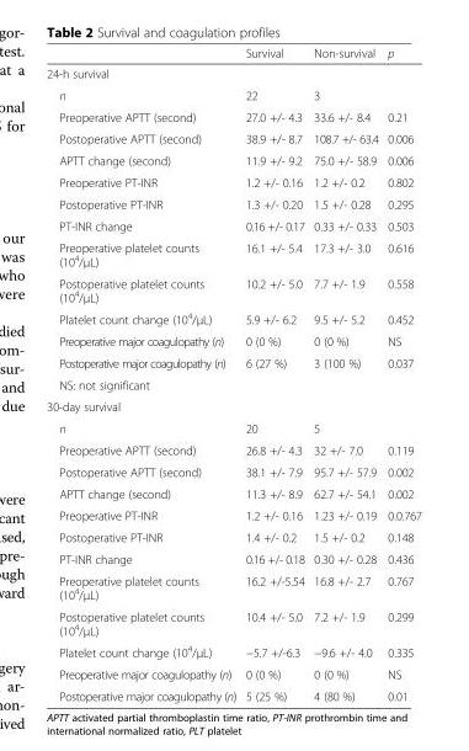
<table><thead><tr><td></td><td>Survival</td><td>Non-survival</td><td>p</td></tr></thead><tbody><tr><td colspan="4">24-h survival</td></tr><tr><td>n</td><td>22</td><td>3</td><td></td></tr><tr><td>Preoperative APTT (second)</td><td>27.0 +/- 4.3</td><td>33.6 +/- 8.4</td><td>0.21</td></tr><tr><td>Postoperative APTT (second)</td><td>38.9 +/- 8.7</td><td>108.7 +/- 63.4</td><td>0.006</td></tr><tr><td>APTT change (second)</td><td>11.9 +/- 9.2</td><td>75.0 +/- 58.9</td><td>0.006</td></tr><tr><td>Preoperative PT-INR</td><td>1.2 +/- 0.16</td><td>1.2 +/- 0.2</td><td>0.802</td></tr><tr><td>Postoperative PT-INR</td><td>1.3 +/- 0.20</td><td>1.5 +/- 0.28</td><td>0.295</td></tr><tr><td>PT-INR change</td><td>0.16 +/- 0.17</td><td>0.33 +/- 0.33</td><td>0.503</td></tr><tr><td>Preoperative platelet counts (10<sup>4</sup>/μL)</td><td>16.1 +/- 5.4</td><td>17.3 +/- 3.0</td><td>0.616</td></tr><tr><td>Postoperative platelet counts (10<sup>4</sup>/μL)</td><td>10.2 +/- 5.0</td><td>7.7 +/- 1.9</td><td>0.558</td></tr><tr><td>Platelet count change (10<sup>4</sup>/μL)</td><td>5.9 +/- 6.2</td><td>9.5 +/- 5.2</td><td>0.452</td></tr><tr><td>Preoperative major coagulopathy (n)</td><td>0 (0 %)</td><td>0 (0 %)</td><td>NS</td></tr><tr><td>Postoperative major coagulopathy (n)</td><td>6 (27 %)</td><td>3 (100 %)</td><td>0.037</td></tr><tr><td colspan="4">NS: not significant</td></tr><tr><td colspan="4">30-day survival</td></tr><tr><td>n</td><td>20</td><td>5</td><td></td></tr><tr><td>Preoperative APTT (second)</td><td>26.8 +/- 4.3</td><td>32 +/- 7.0</td><td>0.119</td></tr><tr><td>Postoperative APTT (second)</td><td>38.1 +/- 7.9</td><td>95.7 +/- 57.9</td><td>0.002</td></tr><tr><td>APTT change (second)</td><td>11.3 +/- 8.9</td><td>62.7 +/- 54.1</td><td>0.002</td></tr><tr><td>Preoperative PT-INR</td><td>1.2 +/- 0.16</td><td>1.23 +/- 0.19</td><td>0.0.767</td></tr><tr><td>Postoperative PT-INR</td><td>1.4 +/- 0.2</td><td>1.5 +/- 0.2</td><td>0.148</td></tr><tr><td>PT-INR change</td><td>0.16 +/- 0.18</td><td>0.30 +/- 0.28</td><td>0.436</td></tr><tr><td>Preoperative platelet counts (10<sup>4</sup>/μL)</td><td>16.2 +/-5.54</td><td>16.8 +/- 2.7</td><td>0.767</td></tr><tr><td>Postoperative platelet counts (10<sup>4</sup>/μL)</td><td>10.4 +/- 5.0</td><td>7.2 +/- 1.9</td><td>0.299</td></tr><tr><td>Platelet count change (10<sup>4</sup>/μL)</td><td>−5.7 +/-6.3</td><td>−9.6 +/- 4.0</td><td>0.335</td></tr><tr><td>Preoperative major coagulopathy (n)</td><td>0 (0 %)</td><td>0 (0 %)</td><td>NS</td></tr><tr><td>Postoperative major coagulopathy (n)</td><td>5 (25 %)</td><td>4 (80 %)</td><td>0.01</td></tr></tbody></table>